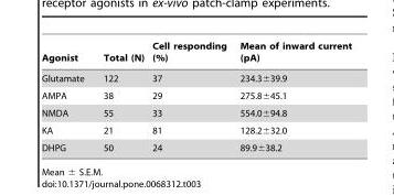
<table><thead><tr><td>Agonist</td><td>Total (N)</td><td>Cell responding (%)</td><td>Mean of inward current (pA)</td></tr></thead><tbody><tr><td>Glutamate</td><td>122</td><td>37</td><td>234.3±39.9</td></tr><tr><td>AMPA</td><td>38</td><td>29</td><td>275.8±45.1</td></tr><tr><td>NMDA</td><td>55</td><td>33</td><td>554.0±94.8</td></tr><tr><td>KA</td><td>21</td><td>81</td><td>128.2±32.0</td></tr><tr><td>DHPG</td><td>50</td><td>24</td><td>89.9±38.2</td></tr></tbody></table>